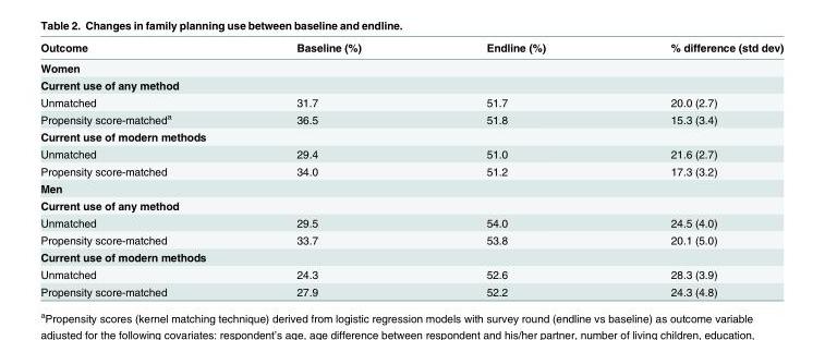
<table><thead><tr><td>Outcome</td><td>Baseline (%)</td><td>Endline (%)</td><td>% difference (std dev)</td></tr></thead><tbody><tr><td colspan="4">Women</td></tr><tr><td colspan="4">Current use of any method</td></tr><tr><td>Unmatched</td><td>31.7</td><td>51.7</td><td>20.0 (2.7)</td></tr><tr><td>Propensity score-matched<sup>a</sup></td><td>36.5</td><td>51.8</td><td>15.3 (3.4)</td></tr><tr><td colspan="4">Current use of modern methods</td></tr><tr><td>Unmatched</td><td>29.4</td><td>51.0</td><td>21.6 (2.7)</td></tr><tr><td>Propensity score-matched</td><td>34.0</td><td>51.2</td><td>17.3 (3.2)</td></tr><tr><td colspan="4">Men</td></tr><tr><td colspan="4">Current use of any method</td></tr><tr><td>Unmatched</td><td>29.5</td><td>54.0</td><td>24.5 (4.0)</td></tr><tr><td>Propensity score-matched</td><td>33.7</td><td>53.8</td><td>20.1 (5.0)</td></tr><tr><td colspan="4">Current use of modern methods</td></tr><tr><td>Unmatched</td><td>24.3</td><td>52.6</td><td>28.3 (3.9)</td></tr><tr><td>Propensity score-matched</td><td>27.9</td><td>52.2</td><td>24.3 (4.8)</td></tr></tbody></table>